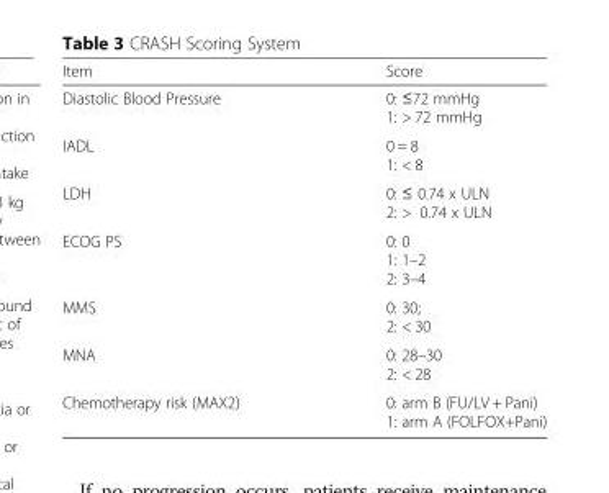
<table><thead><tr><td>Item</td><td>Score</td></tr></thead><tbody><tr><td>Diastolic Blood Pressure</td><td>0: ≤72 mmHg 1: &gt; 72 mmHg</td></tr><tr><td>IADL</td><td>0 = 8 1: &lt; 8</td></tr><tr><td>LDH</td><td>0: ≤ 0.74 x ULN 2: &gt; 0.74 x ULN</td></tr><tr><td>ECOG PS</td><td>0: 0 1: 1–2 2: 3–4</td></tr><tr><td>MMS</td><td>0: 30; 2: &lt; 30</td></tr><tr><td>MNA</td><td>0: 28–30 2: &lt; 28</td></tr><tr><td>Chemotherapy risk (MAX2)</td><td>0: arm B (FU/LV + Pani) 1: arm A (FOLFOX+Pani)</td></tr></tbody></table>